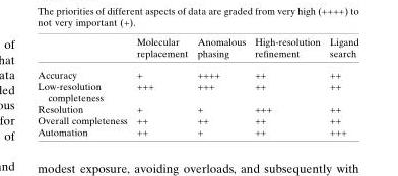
<table><thead><tr><td></td><td>Molecular replacement</td><td>Anomalous phasing</td><td>High-resolution refinement</td><td>Ligand search</td></tr></thead><tbody><tr><td>Accuracy</td><td>+</td><td>++++</td><td>++</td><td>++</td></tr><tr><td>Low-resolution completeness</td><td>+++</td><td>+++</td><td>++</td><td>++</td></tr><tr><td>Resolution</td><td>+</td><td>+</td><td>+++</td><td>++</td></tr><tr><td>Overall completeness</td><td>++</td><td>++</td><td>++</td><td>++</td></tr><tr><td>Automation</td><td>++</td><td>+</td><td>++</td><td>+++</td></tr></tbody></table>